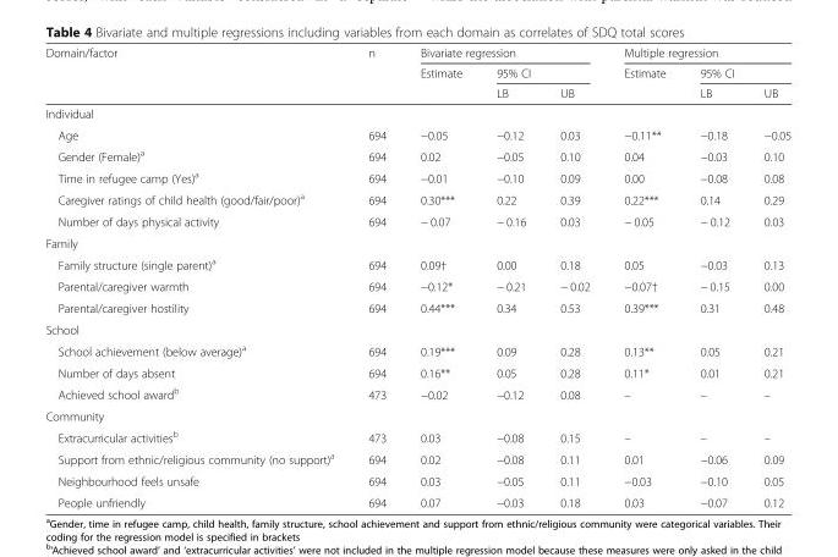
<table><thead><tr><td rowspan="3">Domain/factor</td><td rowspan="3">n</td><td colspan="3">Bivariate regression</td><td colspan="3">Multiple regression</td></tr><tr><td rowspan="2">Estimate</td><td colspan="2">95% CI</td><td rowspan="2">Estimate</td><td colspan="2">95% CI</td></tr><tr><td>LB</td><td>UB</td><td>LB</td><td>UB</td></tr></thead><tbody><tr><td colspan="8">Individual</td></tr><tr><td>Age</td><td>694</td><td>−0.05</td><td>−0.12</td><td>0.03</td><td>−0.11**</td><td>−0.18</td><td>−0.05</td></tr><tr><td>Gender (Female)<sup>a</sup></td><td>694</td><td>0.02</td><td>−0.05</td><td>0.10</td><td>0.04</td><td>−0.03</td><td>0.10</td></tr><tr><td>Time in refugee camp (Yes)<sup>a</sup></td><td>694</td><td>−0.01</td><td>−0.10</td><td>0.09</td><td>0.00</td><td>−0.08</td><td>0.08</td></tr><tr><td>Caregiver ratings of child health (good/fair/poor)<sup>a</sup></td><td>694</td><td>0.30***</td><td>0.22</td><td>0.39</td><td>0.22***</td><td>0.14</td><td>0.29</td></tr><tr><td>Number of days physical activity</td><td>694</td><td>− 0.07</td><td>− 0.16</td><td>0.03</td><td>− 0.05</td><td>− 0.12</td><td>0.03</td></tr><tr><td colspan="8">Family</td></tr><tr><td>Family structure (single parent)<sup>a</sup></td><td>694</td><td>0.09†</td><td>0.00</td><td>0.18</td><td>0.05</td><td>−0.03</td><td>0.13</td></tr><tr><td>Parental/caregiver warmth</td><td>694</td><td>−0.12*</td><td>− 0.21</td><td>− 0.02</td><td>−0.07†</td><td>− 0.15</td><td>0.00</td></tr><tr><td>Parental/caregiver hostility</td><td>694</td><td>0.44***</td><td>0.34</td><td>0.53</td><td>0.39***</td><td>0.31</td><td>0.48</td></tr><tr><td colspan="8">School</td></tr><tr><td>School achievement (below average)<sup>a</sup></td><td>694</td><td>0.19***</td><td>0.09</td><td>0.28</td><td>0.13**</td><td>0.05</td><td>0.21</td></tr><tr><td>Number of days absent</td><td>694</td><td>0.16**</td><td>0.05</td><td>0.28</td><td>0.11*</td><td>0.01</td><td>0.21</td></tr><tr><td>Achieved school award<sup>b</sup></td><td>473</td><td>−0.02</td><td>−0.12</td><td>0.08</td><td>–</td><td>–</td><td>–</td></tr><tr><td colspan="8">Community</td></tr><tr><td>Extracurricular activities<sup>b</sup></td><td>473</td><td>0.03</td><td>−0.08</td><td>0.15</td><td>–</td><td>–</td><td>–</td></tr><tr><td>Support from ethnic/religious community (no support)<sup>a</sup></td><td>694</td><td>0.02</td><td>−0.08</td><td>0.11</td><td>0.01</td><td>−0.06</td><td>0.09</td></tr><tr><td>Neighbourhood feels unsafe</td><td>694</td><td>0.03</td><td>−0.05</td><td>0.11</td><td>−0.03</td><td>−0.10</td><td>0.05</td></tr><tr><td>People unfriendly</td><td>694</td><td>0.07</td><td>−0.03</td><td>0.18</td><td>0.03</td><td>−0.07</td><td>0.12</td></tr></tbody></table>